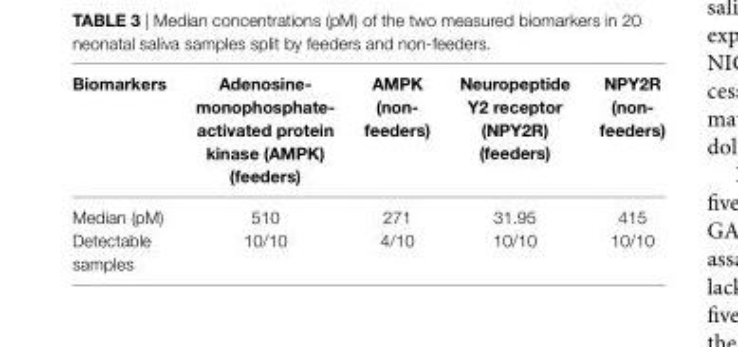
<table><thead><tr><td>biomarkers</td><td>adenosine- monophosphate- activated protein kinase (aMPK) (feeders)</td><td>aMPK (non- feeders)</td><td>neuropeptide Y2 receptor (nPY2r) (feeders)</td><td>nPY2r (non- feeders)</td></tr></thead><tbody><tr><td>Median (pM)</td><td>510</td><td>271</td><td>31.95</td><td>415</td></tr><tr><td>Detectable samples</td><td>10/10</td><td>4/10</td><td>10/10</td><td>10/10</td></tr></tbody></table>